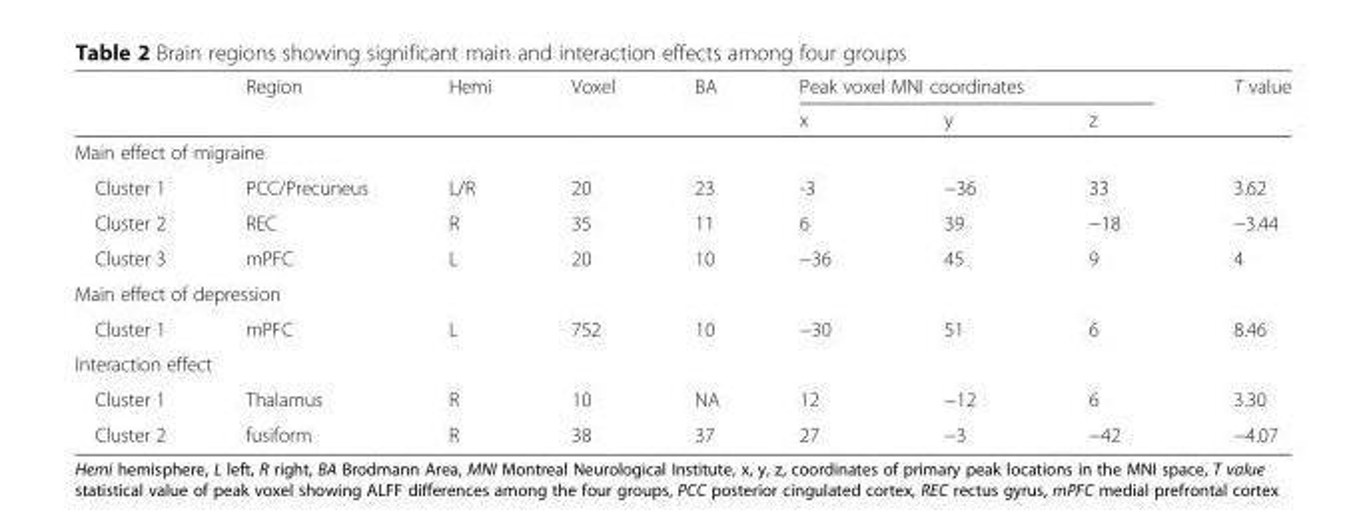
<table><thead><tr><td rowspan="2"></td><td rowspan="2">Region</td><td rowspan="2">Hemi</td><td rowspan="2">Voxel</td><td rowspan="2">BA</td><td colspan="3">Peak voxel MNI coordinates</td><td rowspan="2">T value</td></tr><tr><td>x</td><td>y</td><td>z</td></tr></thead><tbody><tr><td colspan="9">Main effect of migraine</td></tr><tr><td>Cluster 1</td><td>PCC/Precuneus</td><td>L/R</td><td>20</td><td>23</td><td>-3</td><td>−36</td><td>33</td><td>3.62</td></tr><tr><td>Cluster 2</td><td>REC</td><td>R</td><td>35</td><td>11</td><td>6</td><td>39</td><td>−18</td><td>−3.44</td></tr><tr><td>Cluster 3</td><td>mPFC</td><td>L</td><td>20</td><td>10</td><td>−36</td><td>45</td><td>9</td><td>4</td></tr><tr><td colspan="9">Main effect of depression</td></tr><tr><td>Cluster 1</td><td>mPFC</td><td>L</td><td>752</td><td>10</td><td>−30</td><td>51</td><td>6</td><td>8.46</td></tr><tr><td colspan="9">Interaction effect</td></tr><tr><td>Cluster 1</td><td>Thalamus</td><td>R</td><td>10</td><td>NA</td><td>12</td><td>−12</td><td>6</td><td>3.30</td></tr><tr><td>Cluster 2</td><td>fusiform</td><td>R</td><td>38</td><td>37</td><td>27</td><td>−3</td><td>−42</td><td>−4.07</td></tr></tbody></table>